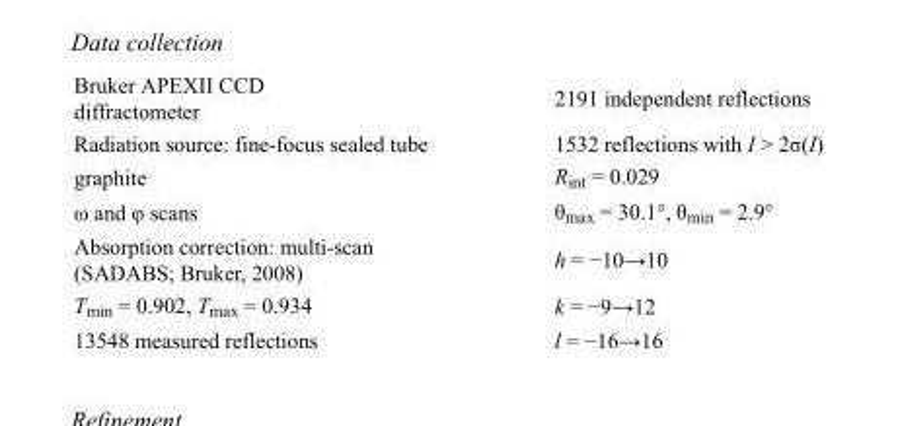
<table><tbody><tr><td>Bruker APEXII CCD diffractometer</td><td>2191 independent reflections</td></tr><tr><td>Radiation source: fine-focus sealed tube</td><td>1532 reflections with I &gt; 2σ(I)</td></tr><tr><td>graphite</td><td>R<sub>int</sub> = 0.029</td></tr><tr><td>ω and φ scans</td><td>θ<sub>max</sub> = 30.1°, θ<sub>min</sub> = 2.9°</td></tr><tr><td>Absorption correction: multi-scan (SADABS; Bruker, 2008)</td><td>h = −10→10</td></tr><tr><td>T<sub>min</sub> = 0.902, T<sub>max</sub> = 0.934</td><td>k = −9→12</td></tr><tr><td>13548 measured reflections</td><td>l = −16→16</td></tr></tbody></table>